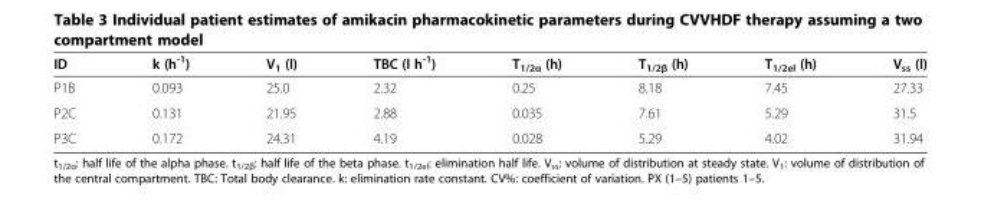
<table><thead><tr><td>ID</td><td>k (h<sup>-1</sup>)</td><td>V<sub>1</sub> (l)</td><td>TBC (l h<sup>-1</sup>)</td><td>T<sub>1/2α</sub> (h)</td><td>T<sub>1/2β</sub> (h)</td><td>T<sub>1/2el</sub> (h)</td><td>V<sub>ss</sub> (l)</td></tr></thead><tbody><tr><td>P1B</td><td>0.093</td><td>25.0</td><td>2.32</td><td>0.25</td><td>8.18</td><td>7.45</td><td>27.33</td></tr><tr><td>P2C</td><td>0.131</td><td>21.95</td><td>2.88</td><td>0.035</td><td>7.61</td><td>5.29</td><td>31.5</td></tr><tr><td>P3C</td><td>0.172</td><td>24.31</td><td>4.19</td><td>0.028</td><td>5.29</td><td>4.02</td><td>31.94</td></tr></tbody></table>